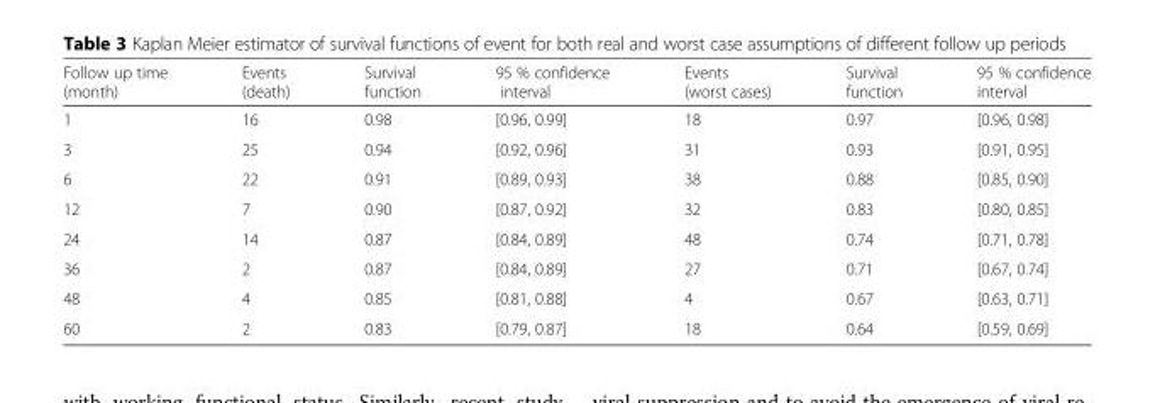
<table><thead><tr><td>Follow up time (month)</td><td>Events (death)</td><td>Survival function</td><td>95 % confidence interval</td><td>Events (worst cases)</td><td>Survival function</td><td>95 % confidence interval</td></tr></thead><tbody><tr><td>1</td><td>16</td><td>0.98</td><td>[0.96, 0.99]</td><td>18</td><td>0.97</td><td>[0.96, 0.98]</td></tr><tr><td>3</td><td>25</td><td>0.94</td><td>[0.92, 0.96]</td><td>31</td><td>0.93</td><td>[0.91, 0.95]</td></tr><tr><td>6</td><td>22</td><td>0.91</td><td>[0.89, 0.93]</td><td>38</td><td>0.88</td><td>[0.85, 0.90]</td></tr><tr><td>12</td><td>7</td><td>0.90</td><td>[0.87, 0.92]</td><td>32</td><td>0.83</td><td>[0.80, 0.85]</td></tr><tr><td>24</td><td>14</td><td>0.87</td><td>[0.84, 0.89]</td><td>48</td><td>0.74</td><td>[0.71, 0.78]</td></tr><tr><td>36</td><td>2</td><td>0.87</td><td>[0.84, 0.89]</td><td>27</td><td>0.71</td><td>[0.67, 0.74]</td></tr><tr><td>48</td><td>4</td><td>0.85</td><td>[0.81, 0.88]</td><td>4</td><td>0.67</td><td>[0.63, 0.71]</td></tr><tr><td>60</td><td>2</td><td>0.83</td><td>[0.79, 0.87]</td><td>18</td><td>0.64</td><td>[0.59, 0.69]</td></tr></tbody></table>